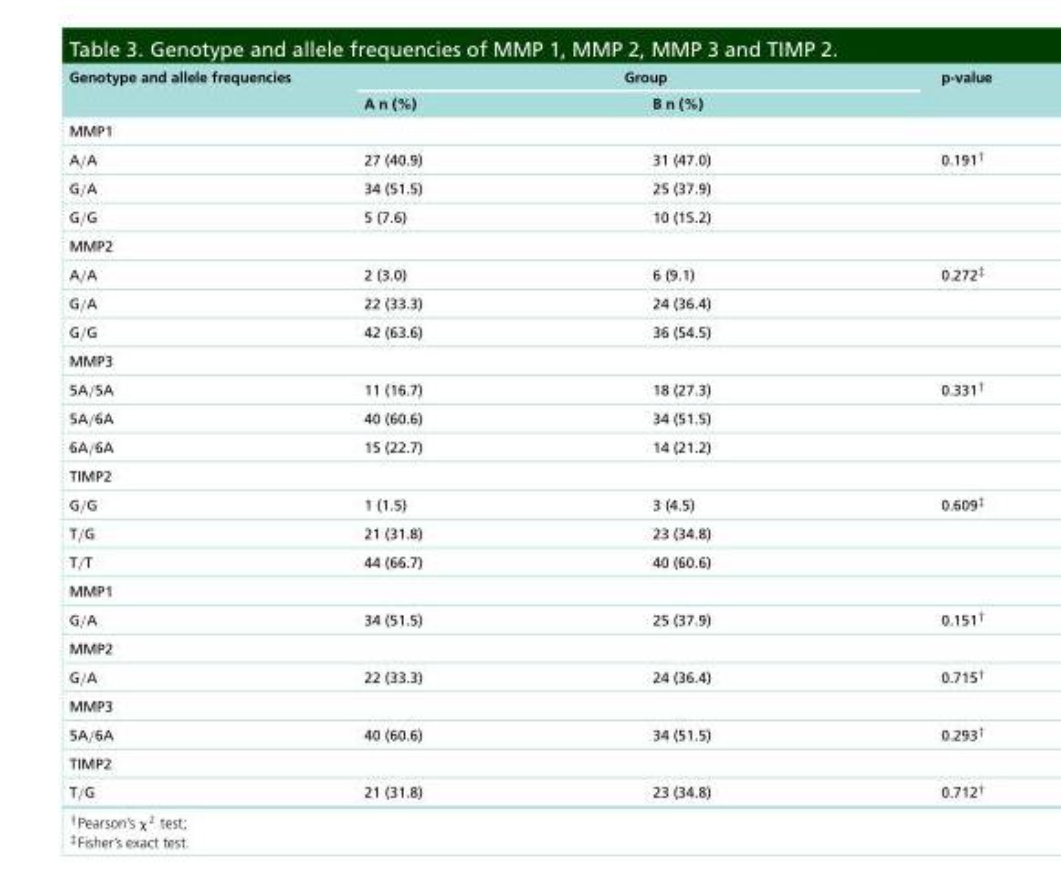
<table><thead><tr><td rowspan="2">Genotype and allele frequencies</td><td colspan="2">Group</td><td rowspan="2">p-value</td></tr><tr><td>A n (%)</td><td>B n (%)</td></tr></thead><tbody><tr><td colspan="4">MMP1</td></tr><tr><td>A/A</td><td>27 (40.9)</td><td>31 (47.0)</td><td>0.191<sup>†</sup></td></tr><tr><td>G/A</td><td>34 (51.5)</td><td>25 (37.9)</td><td></td></tr><tr><td>G/G</td><td>5 (7.6)</td><td>10 (15.2)</td><td></td></tr><tr><td colspan="4">MMP2</td></tr><tr><td>A/A</td><td>2 (3.0)</td><td>6 (9.1)</td><td>0.272<sup>‡</sup></td></tr><tr><td>G/A</td><td>22 (33.3)</td><td>24 (36.4)</td><td></td></tr><tr><td>G/G</td><td>42 (63.6)</td><td>36 (54.5)</td><td></td></tr><tr><td colspan="4">MMP3</td></tr><tr><td>5A/5A</td><td>11 (16.7)</td><td>18 (27.3)</td><td>0.331<sup>†</sup></td></tr><tr><td>5A/6A</td><td>40 (60.6)</td><td>34 (51.5)</td><td></td></tr><tr><td>6A/6A</td><td>15 (22.7)</td><td>14 (21.2)</td><td></td></tr><tr><td colspan="4">TIMP2</td></tr><tr><td>G/G</td><td>1 (1.5)</td><td>3 (4.5)</td><td>0.609<sup>‡</sup></td></tr><tr><td>T/G</td><td>21 (31.8)</td><td>23 (34.8)</td><td></td></tr><tr><td>T/T</td><td>44 (66.7)</td><td>40 (60.6)</td><td></td></tr><tr><td colspan="4">MMP1</td></tr><tr><td>G/A</td><td>34 (51.5)</td><td>25 (37.9)</td><td>0.151<sup>†</sup></td></tr><tr><td colspan="4">MMP2</td></tr><tr><td>G/A</td><td>22 (33.3)</td><td>24 (36.4)</td><td>0.715<sup>†</sup></td></tr><tr><td colspan="4">MMP3</td></tr><tr><td>5A/6A</td><td>40 (60.6)</td><td>34 (51.5)</td><td>0.293<sup>†</sup></td></tr><tr><td colspan="4">TIMP2</td></tr><tr><td>T/G</td><td>21 (31.8)</td><td>23 (34.8)</td><td>0.712<sup>†</sup></td></tr></tbody></table>